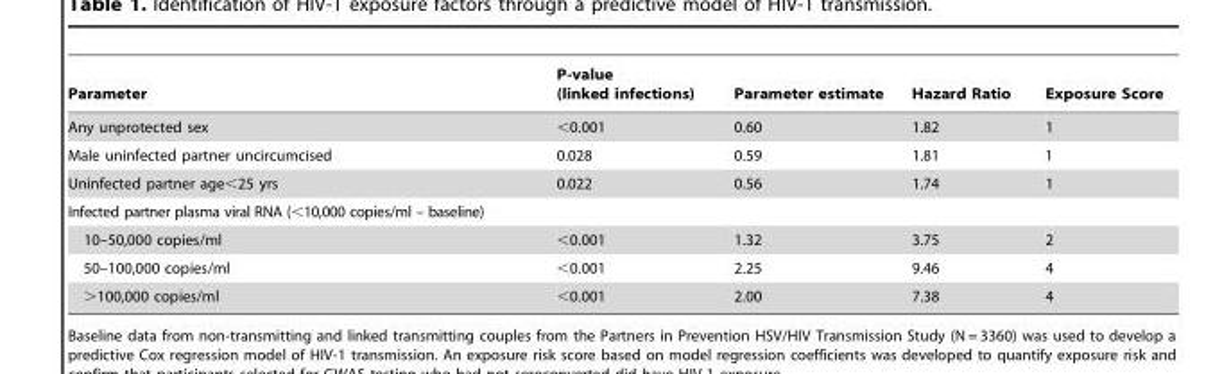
<table><thead><tr><td>Parameter</td><td>P-value (linked infections)</td><td>Parameter estimate</td><td>Hazard Ratio</td><td>Exposure Score</td></tr></thead><tbody><tr><td>Any unprotected sex</td><td>&lt;0.001</td><td>0.60</td><td>1.82</td><td>1</td></tr><tr><td>Male uninfected partner uncircumcised</td><td>0.028</td><td>0.59</td><td>1.81</td><td>1</td></tr><tr><td>Uninfected partner age&lt;25 yrs</td><td>0.022</td><td>0.56</td><td>1.74</td><td>1</td></tr><tr><td colspan="5">Infected partner plasma viral RNA (&lt;10,000 copies/ml – baseline)</td></tr><tr><td>10–50,000 copies/ml</td><td>&lt;0.001</td><td>1.32</td><td>3.75</td><td>2</td></tr><tr><td>50–100,000 copies/ml</td><td>&lt;0.001</td><td>2.25</td><td>9.46</td><td>4</td></tr><tr><td>&gt;100,000 copies/ml</td><td>&lt;0.001</td><td>2.00</td><td>7.38</td><td>4</td></tr></tbody></table>